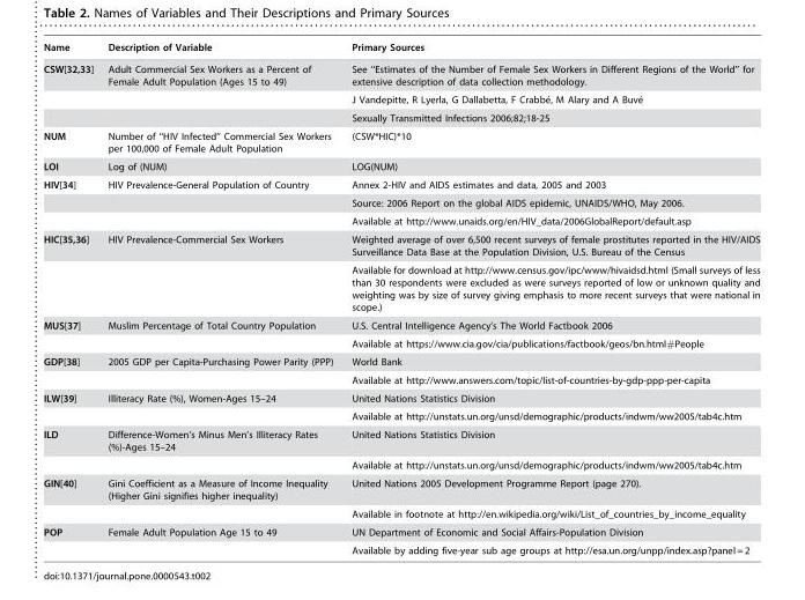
<table><thead><tr><td>Name</td><td>Description of Variable</td><td>Primary Sources</td></tr></thead><tbody><tr><td rowspan="3">CSW[32,33]</td><td>Adult Commercial Sex Workers as a Percent of Female Adult Population (Ages 15 to 49)</td><td>See ‘‘Estimates of the Number of Female Sex Workers in Different Regions of the World’’ for extensive description of data collection methodology.</td></tr><tr><td></td><td>J Vandepitte, R Lyerla, G Dallabetta, F Crabbe´, M Alary and A Buve´</td></tr><tr><td></td><td>Sexually Transmitted Infections 2006;82;18-25</td></tr><tr><td>NUM</td><td>Number of ‘‘HIV Infected’’ Commercial Sex Workers per 100,000 of Female Adult Population</td><td>(CSW*HIC)*10</td></tr><tr><td>LOI</td><td>Log of (NUM)</td><td>LOG(NUM)</td></tr><tr><td rowspan="3">HIV[34]</td><td>HIV Prevalence-General Population of Country</td><td>Annex 2-HIV and AIDS estimates and data, 2005 and 2003</td></tr><tr><td></td><td>Source: 2006 Report on the global AIDS epidemic, UNAIDS/WHO, May 2006.</td></tr><tr><td></td><td>Available at http://www.unaids.org/en/HIV_data/2006GlobalReport/default.asp</td></tr><tr><td rowspan="2">HIC[35,36]</td><td>HIV Prevalence-Commercial Sex Workers</td><td>Weighted average of over 6,500 recent surveys of female prostitutes reported in the HIV/AIDS Surveillance Data Base at the Population Division, U.S. Bureau of the Census</td></tr><tr><td></td><td>Available for download at http://www.census.gov/ipc/www/hivaidsd.html (Small surveys of less than 30 respondents were excluded as were surveys reported of low or unknown quality and weighting was by size of survey giving emphasis to more recent surveys that were national in scope.)</td></tr><tr><td rowspan="2">MUS[37]</td><td>Muslim Percentage of Total Country Population</td><td>U.S. Central Intelligence Agency’s The World Factbook 2006</td></tr><tr><td></td><td>Available at https://www.cia.gov/cia/publications/factbook/geos/bn.html#People</td></tr><tr><td rowspan="2">GDP[38]</td><td>2005 GDP per Capita-Purchasing Power Parity (PPP)</td><td>World Bank</td></tr><tr><td></td><td>Available at http://www.answers.com/topic/list-of-countries-by-gdp-ppp-per-capita</td></tr><tr><td rowspan="2">ILW[39]</td><td>Illiteracy Rate (%), Women-Ages 15–24</td><td>United Nations Statistics Division</td></tr><tr><td></td><td>Available at http://unstats.un.org/unsd/demographic/products/indwm/ww2005/tab4c.htm</td></tr><tr><td rowspan="2">ILD</td><td>Difference-Women’s Minus Men’s Illiteracy Rates (%)-Ages 15–24</td><td>United Nations Statistics Division</td></tr><tr><td></td><td>Available at http://unstats.un.org/unsd/demographic/products/indwm/ww2005/tab4c.htm</td></tr><tr><td rowspan="2">GIN[40]</td><td>Gini Coefficient as a Measure of Income Inequality (Higher Gini signifies higher inequality)</td><td>United Nations 2005 Development Programme Report (page 270).</td></tr><tr><td></td><td>Available in footnote at http://en.wikipedia.org/wiki/List_of_countries_by_income_equality</td></tr><tr><td rowspan="2">POP</td><td>Female Adult Population Age 15 to 49</td><td>UN Department of Economic and Social Affairs-Population Division</td></tr><tr><td></td><td>Available by adding five-year sub age groups at http://esa.un.org/unpp/index.asp?panel = 2</td></tr></tbody></table>